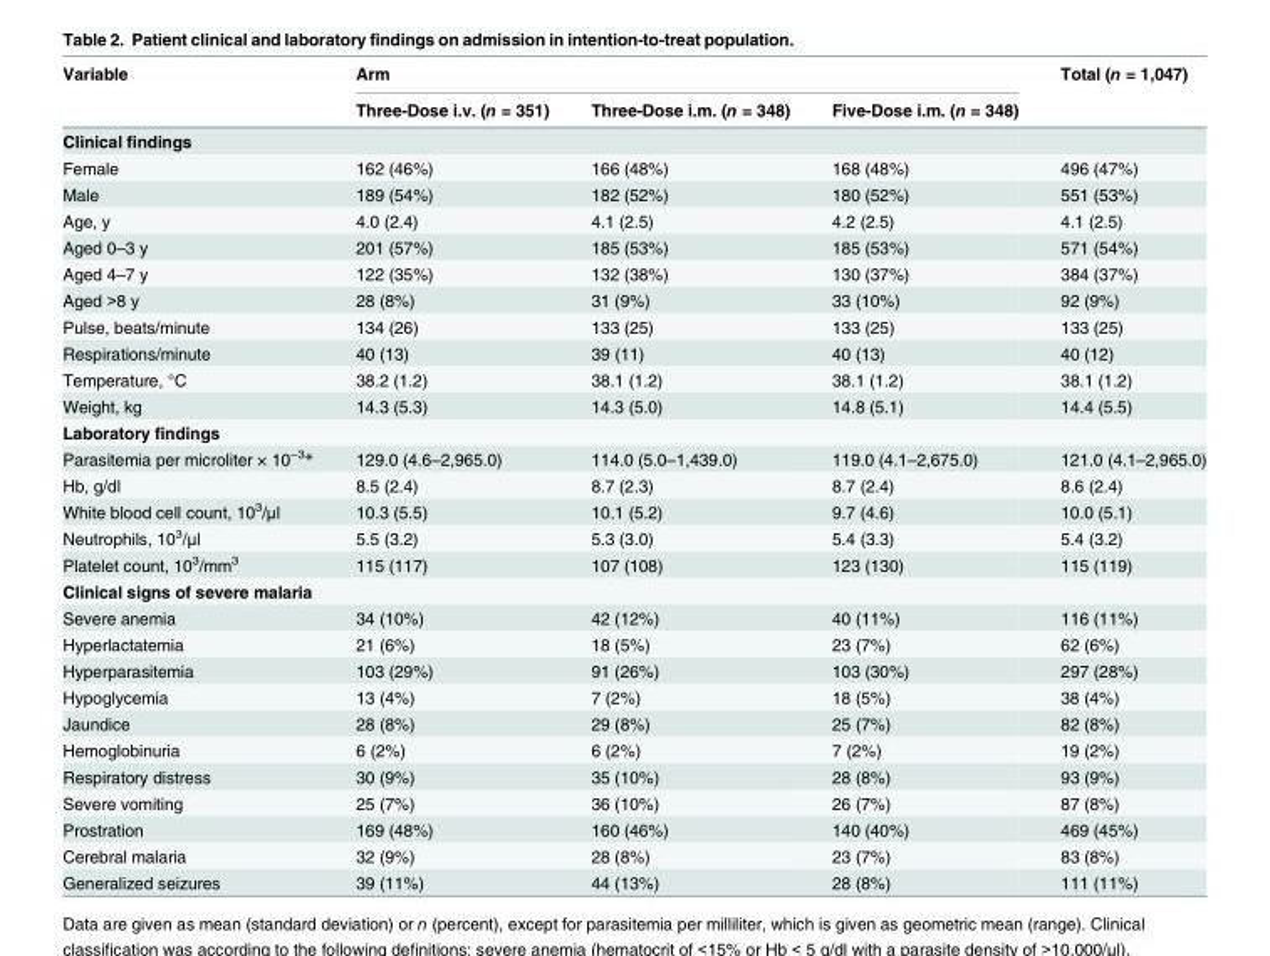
<table><thead><tr><td rowspan="2">Variable</td><td colspan="3">Arm</td><td rowspan="2">Total (n = 1,047)</td></tr><tr><td>Three-Dose i.v. (n = 351)</td><td>Three-Dose i.m. (n = 348)</td><td>Five-Dose i.m. (n = 348)</td></tr></thead><tbody><tr><td colspan="5">Clinical findings</td></tr><tr><td>Female</td><td>162 (46%)</td><td>166 (48%)</td><td>168 (48%)</td><td>496 (47%)</td></tr><tr><td>Male</td><td>189 (54%)</td><td>182 (52%)</td><td>180 (52%)</td><td>551 (53%)</td></tr><tr><td>Age, y</td><td>4.0 (2.4)</td><td>4.1 (2.5)</td><td>4.2 (2.5)</td><td>4.1 (2.5)</td></tr><tr><td>Aged 0–3 y</td><td>201 (57%)</td><td>185 (53%)</td><td>185 (53%)</td><td>571 (54%)</td></tr><tr><td>Aged 4–7 y</td><td>122 (35%)</td><td>132 (38%)</td><td>130 (37%)</td><td>384 (37%)</td></tr><tr><td>Aged &gt;8 y</td><td>28 (8%)</td><td>31 (9%)</td><td>33 (10%)</td><td>92 (9%)</td></tr><tr><td>Pulse, beats/minute</td><td>134 (26)</td><td>133 (25)</td><td>133 (25)</td><td>133 (25)</td></tr><tr><td>Respirations/minute</td><td>40 (13)</td><td>39 (11)</td><td>40 (13)</td><td>40 (12)</td></tr><tr><td>Temperature, °C</td><td>38.2 (1.2)</td><td>38.1 (1.2)</td><td>38.1 (1.2)</td><td>38.1 (1.2)</td></tr><tr><td>Weight, kg</td><td>14.3 (5.3)</td><td>14.3 (5.0)</td><td>14.8 (5.1)</td><td>14.4 (5.5)</td></tr><tr><td colspan="5">Laboratory findings</td></tr><tr><td>Parasitemia per microliter × 10<sup>−3</sup>*</td><td>129.0 (4.6–2,965.0)</td><td>114.0 (5.0–1,439.0)</td><td>119.0 (4.1–2,675.0)</td><td>121.0 (4.1–2,965.0)</td></tr><tr><td>Hb, g/dl</td><td>8.5 (2.4)</td><td>8.7 (2.3)</td><td>8.7 (2.4)</td><td>8.6 (2.4)</td></tr><tr><td>White blood cell count, 10<sup>3</sup>/μl</td><td>10.3 (5.5)</td><td>10.1 (5.2)</td><td>9.7 (4.6)</td><td>10.0 (5.1)</td></tr><tr><td>Neutrophils, 10<sup>3</sup>/μl</td><td>5.5 (3.2)</td><td>5.3 (3.0)</td><td>5.4 (3.3)</td><td>5.4 (3.2)</td></tr><tr><td>Platelet count, 10<sup>3</sup>/mm<sup>3</sup></td><td>115 (117)</td><td>107 (108)</td><td>123 (130)</td><td>115 (119)</td></tr><tr><td colspan="5">Clinical signs of severe malaria</td></tr><tr><td>Severe anemia</td><td>34 (10%)</td><td>42 (12%)</td><td>40 (11%)</td><td>116 (11%)</td></tr><tr><td>Hyperlactatemia</td><td>21 (6%)</td><td>18 (5%)</td><td>23 (7%)</td><td>62 (6%)</td></tr><tr><td>Hyperparasitemia</td><td>103 (29%)</td><td>91 (26%)</td><td>103 (30%)</td><td>297 (28%)</td></tr><tr><td>Hypoglycemia</td><td>13 (4%)</td><td>7 (2%)</td><td>18 (5%)</td><td>38 (4%)</td></tr><tr><td>Jaundice</td><td>28 (8%)</td><td>29 (8%)</td><td>25 (7%)</td><td>82 (8%)</td></tr><tr><td>Hemoglobinuria</td><td>6 (2%)</td><td>6 (2%)</td><td>7 (2%)</td><td>19 (2%)</td></tr><tr><td>Respiratory distress</td><td>30 (9%)</td><td>35 (10%)</td><td>28 (8%)</td><td>93 (9%)</td></tr><tr><td>Severe vomiting</td><td>25 (7%)</td><td>36 (10%)</td><td>26 (7%)</td><td>87 (8%)</td></tr><tr><td>Prostration</td><td>169 (48%)</td><td>160 (46%)</td><td>140 (40%)</td><td>469 (45%)</td></tr><tr><td>Cerebral malaria</td><td>32 (9%)</td><td>28 (8%)</td><td>23 (7%)</td><td>83 (8%)</td></tr><tr><td>Generalized seizures</td><td>39 (11%)</td><td>44 (13%)</td><td>28 (8%)</td><td>111 (11%)</td></tr></tbody></table>